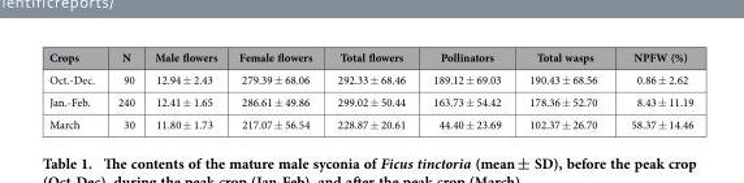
<table><thead><tr><td>Crops</td><td>N</td><td>Male flowers</td><td>Female flowers</td><td>Total flowers</td><td>Pollinators</td><td>Total wasps</td><td>NPFW (%)</td></tr></thead><tbody><tr><td>Oct.-Dec.</td><td>90</td><td>12.94 ± 2.43</td><td>279.39 ± 68.06</td><td>292.33 ± 68.46</td><td>189.12 ± 69.03</td><td>190.43 ± 68.56</td><td>0.86 ± 2.62</td></tr><tr><td>Jan.-Feb.</td><td>240</td><td>12.41 ± 1.65</td><td>286.61 ± 49.86</td><td>299.02 ± 50.44</td><td>163.73 ± 54.42</td><td>178.36 ± 52.70</td><td>8.43 ± 11.19</td></tr><tr><td>March</td><td>30</td><td>11.80 ± 1.73</td><td>217.07 ± 56.54</td><td>228.87 ± 20.61</td><td>44.40 ± 23.69</td><td>102.37 ± 26.70</td><td>58.37 ± 14.46</td></tr></tbody></table>